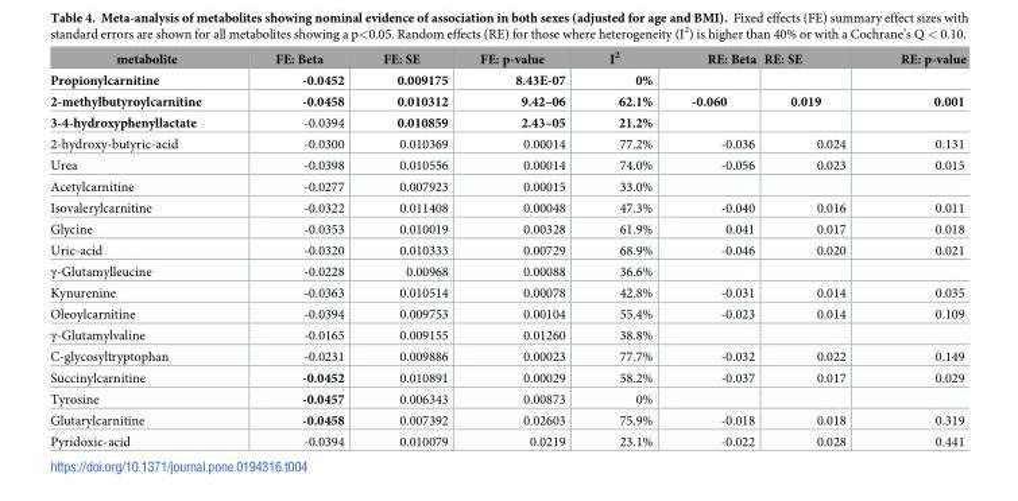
<table><thead><tr><td>metabolite</td><td>FE: Beta</td><td>FE: SE</td><td>FE: p-value</td><td>I<sup>2</sup></td><td>RE: Beta</td><td>RE: SE</td><td>RE: p-value</td></tr></thead><tbody><tr><td>Propionylcarnitine</td><td>-0.0452</td><td>0.009175</td><td>8.43E-07</td><td>0%</td><td></td><td></td><td></td></tr><tr><td>2-methylbutyroylcarnitine</td><td>-0.0458</td><td>0.010312</td><td>9.42–06</td><td>62.1%</td><td>-0.060</td><td>0.019</td><td>0.001</td></tr><tr><td>3-4-hydroxyphenyllactate</td><td>-0.0394</td><td>0.010859</td><td>2.43–05</td><td>21.2%</td><td></td><td></td><td></td></tr><tr><td>2-hydroxy-butyric-acid</td><td>-0.0300</td><td>0.010369</td><td>0.00014</td><td>77.2%</td><td>-0.036</td><td>0.024</td><td>0.131</td></tr><tr><td>Urea</td><td>-0.0398</td><td>0.010556</td><td>0.00014</td><td>74.0%</td><td>-0.056</td><td>0.023</td><td>0.015</td></tr><tr><td>Acetylcarnitine</td><td>-0.0277</td><td>0.007923</td><td>0.00015</td><td>33.0%</td><td></td><td></td><td></td></tr><tr><td>Isovalerylcarnitine</td><td>-0.0322</td><td>0.011408</td><td>0.00048</td><td>47.3%</td><td>-0.040</td><td>0.016</td><td>0.011</td></tr><tr><td>Glycine</td><td>-0.0353</td><td>0.010019</td><td>0.00328</td><td>61.9%</td><td>0.041</td><td>0.017</td><td>0.018</td></tr><tr><td>Uric-acid</td><td>-0.0320</td><td>0.010333</td><td>0.00729</td><td>68.9%</td><td>-0.046</td><td>0.020</td><td>0.021</td></tr><tr><td>γ-Glutamylleucine</td><td>-0.0228</td><td>0.00968</td><td>0.00088</td><td>36.6%</td><td></td><td></td><td></td></tr><tr><td>Kynurenine</td><td>-0.0363</td><td>0.010514</td><td>0.00078</td><td>42.8%</td><td>-0.031</td><td>0.014</td><td>0.035</td></tr><tr><td>Oleoylcarnitine</td><td>-0.0394</td><td>0.009753</td><td>0.00104</td><td>55.4%</td><td>-0.023</td><td>0.014</td><td>0.109</td></tr><tr><td>γ-Glutamylvaline</td><td>-0.0165</td><td>0.009155</td><td>0.01260</td><td>38.8%</td><td></td><td></td><td></td></tr><tr><td>C-glycosyltryptophan</td><td>-0.0231</td><td>0.009886</td><td>0.00023</td><td>77.7%</td><td>-0.032</td><td>0.022</td><td>0.149</td></tr><tr><td>Succinylcarnitine</td><td>-0.0452</td><td>0.010891</td><td>0.00029</td><td>58.2%</td><td>-0.037</td><td>0.017</td><td>0.029</td></tr><tr><td>Tyrosine</td><td>-0.0457</td><td>0.006343</td><td>0.00873</td><td>0%</td><td></td><td></td><td></td></tr><tr><td>Glutarylcarnitine</td><td>-0.0458</td><td>0.007392</td><td>0.02603</td><td>75.9%</td><td>-0.018</td><td>0.018</td><td>0.319</td></tr><tr><td>Pyridoxic-acid</td><td>-0.0394</td><td>0.010079</td><td>0.0219</td><td>23.1%</td><td>-0.022</td><td>0.028</td><td>0.441</td></tr></tbody></table>